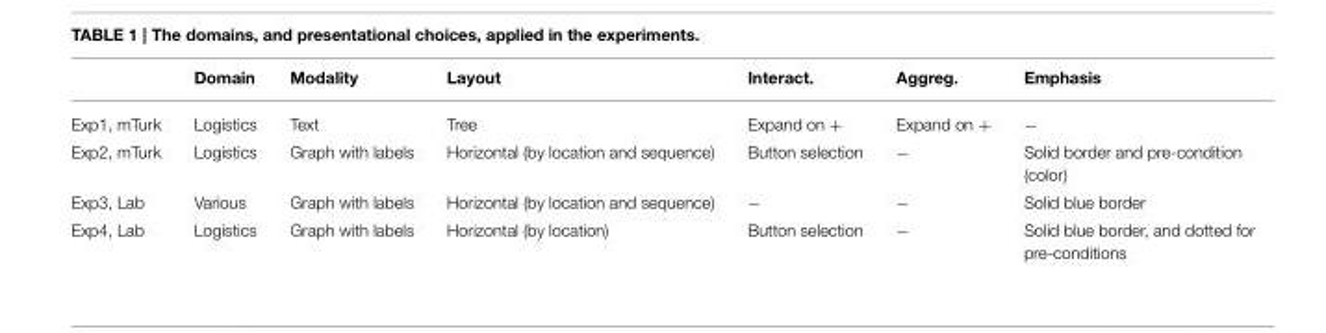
<table><thead><tr><td></td><td>Domain</td><td>Modality</td><td>Layout</td><td>Interact.</td><td>Aggreg.</td><td>Emphasis</td></tr></thead><tbody><tr><td>Exp1, mTurk</td><td>Logistics</td><td>Text</td><td>Tree</td><td>Expand on +</td><td>Expand on +</td><td>−</td></tr><tr><td>Exp2, mTurk</td><td>Logistics</td><td>Graph with labels</td><td>Horizontal (by location and sequence)</td><td>Button selection</td><td>−</td><td>Solid border and pre-condition (color)</td></tr><tr><td>Exp3, Lab</td><td>Various</td><td>Graph with labels</td><td>Horizontal (by location and sequence)</td><td>−</td><td>−</td><td>Solid blue border</td></tr><tr><td>Exp4, Lab</td><td>Logistics</td><td>Graph with labels</td><td>Horizontal (by location)</td><td>Button selection</td><td>−</td><td>Solid blue border, and dotted for pre-conditions</td></tr></tbody></table>